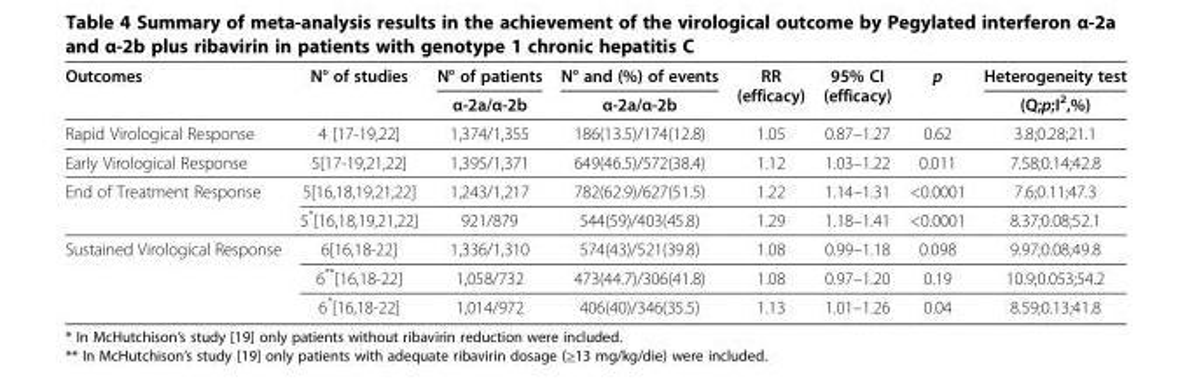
<table><thead><tr><td rowspan="2">Outcomes</td><td rowspan="2">N° of studies</td><td rowspan="2">N° of patients α-2a/α-2b</td><td rowspan="2">N° and (%) of events α-2a/α-2b</td><td rowspan="2">RR (efficacy)</td><td rowspan="2">95% CI (efficacy)</td><td rowspan="2">p</td><td rowspan="2">Heterogeneity test (Q;p;I<sup>2</sup>,%)</td></tr><tr></tr></thead><tbody><tr><td>Rapid Virological Response</td><td>4 [17-19,22]</td><td>1,374/1,355</td><td>186(13.5)/174(12.8)</td><td>1.05</td><td>0.87–1.27</td><td>0.62</td><td>3.8;0.28;21.1</td></tr><tr><td>Early Virological Response</td><td>5[17-19,21,22]</td><td>1,395/1,371</td><td>649(46.5)/572(38.4)</td><td>1.12</td><td>1.03–1.22</td><td>0.011</td><td>7.58;0.14;42.8</td></tr><tr><td rowspan="2">End of Treatment Response</td><td>5[16,18,19,21,22]</td><td>1,243/1,217</td><td>782(62.9)/627(51.5)</td><td>1.22</td><td>1.14–1.31</td><td>&lt;0.0001</td><td>7.6;0.11;47.3</td></tr><tr><td>5*[16,18,19,21,22]</td><td>921/879</td><td>544(59)/403(45.8)</td><td>1.29</td><td>1.18–1.41</td><td>&lt;0.0001</td><td>8.37;0.08;52.1</td></tr><tr><td rowspan="3">Sustained Virological Response</td><td>6[16,18-22]</td><td>1,336/1,310</td><td>574(43)/521(39.8)</td><td>1.08</td><td>0.99–1.18</td><td>0.098</td><td>9.97;0.08;49.8</td></tr><tr><td>6**[16,18-22]</td><td>1,058/732</td><td>473(44.7)/306(41.8)</td><td>1.08</td><td>0.97–1.20</td><td>0.19</td><td>10.9;0.053;54.2</td></tr><tr><td>6*[16,18-22]</td><td>1,014/972</td><td>406(40)/346(35.5)</td><td>1.13</td><td>1.01–1.26</td><td>0.04</td><td>8.59;0.13;41.8</td></tr></tbody></table>